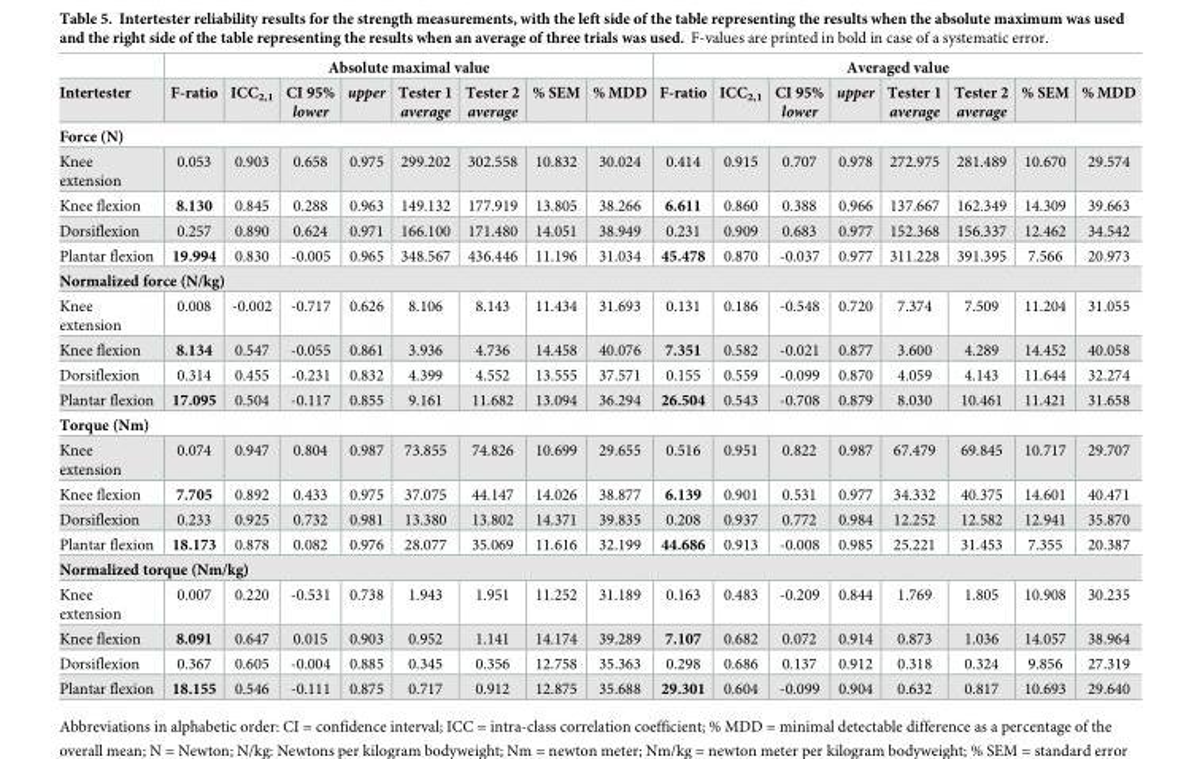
<table><thead><tr><td rowspan="2">Intertester</td><td colspan="8">Absolute maximal value</td><td colspan="8">Averaged value</td></tr><tr><td>F-ratio</td><td>ICC<sub>2,1</sub></td><td>CI 95% lower</td><td>upper</td><td>Tester 1 average</td><td>Tester 2 average</td><td>% SEM</td><td>% MDD</td><td>F-ratio</td><td>ICC<sub>2,1</sub></td><td>CI 95% lower</td><td>upper</td><td>Tester 1 average</td><td>Tester 2 average</td><td>% SEM</td><td>% MDD</td></tr></thead><tbody><tr><td colspan="17">Force (N)</td></tr><tr><td>Knee extension</td><td>0.053</td><td>0.903</td><td>0.658</td><td>0.975</td><td>299.202</td><td>302.558</td><td>10.832</td><td>30.024</td><td>0.414</td><td>0.915</td><td>0.707</td><td>0.978</td><td>272.975</td><td>281.489</td><td>10.670</td><td>29.574</td></tr><tr><td>Knee flexion</td><td>8.130</td><td>0.845</td><td>0.288</td><td>0.963</td><td>149.132</td><td>177.919</td><td>13.805</td><td>38.266</td><td>6.611</td><td>0.860</td><td>0.388</td><td>0.966</td><td>137.667</td><td>162.349</td><td>14.309</td><td>39.663</td></tr><tr><td>Dorsiflexion</td><td>0.257</td><td>0.890</td><td>0.624</td><td>0.971</td><td>166.100</td><td>171.480</td><td>14.051</td><td>38.949</td><td>0.231</td><td>0.909</td><td>0.683</td><td>0.977</td><td>152.368</td><td>156.337</td><td>12.462</td><td>34.542</td></tr><tr><td>Plantar flexion</td><td>19.994</td><td>0.830</td><td>-0.005</td><td>0.965</td><td>348.567</td><td>436.446</td><td>11.196</td><td>31.034</td><td>45.478</td><td>0.870</td><td>-0.037</td><td>0.977</td><td>311.228</td><td>391.395</td><td>7.566</td><td>20.973</td></tr><tr><td colspan="17">Normalized force (N/kg)</td></tr><tr><td>Knee extension</td><td>0.008</td><td>-0.002</td><td>-0.717</td><td>0.626</td><td>8.106</td><td>8.143</td><td>11.434</td><td>31.693</td><td>0.131</td><td>0.186</td><td>-0.548</td><td>0.720</td><td>7.374</td><td>7.509</td><td>11.204</td><td>31.055</td></tr><tr><td>Knee flexion</td><td>8.134</td><td>0.547</td><td>-0.055</td><td>0.861</td><td>3.936</td><td>4.736</td><td>14.458</td><td>40.076</td><td>7.351</td><td>0.582</td><td>-0.021</td><td>0.877</td><td>3.600</td><td>4.289</td><td>14.452</td><td>40.058</td></tr><tr><td>Dorsiflexion</td><td>0.314</td><td>0.455</td><td>-0.231</td><td>0.832</td><td>4.399</td><td>4.552</td><td>13.555</td><td>37.571</td><td>0.155</td><td>0.559</td><td>-0.099</td><td>0.870</td><td>4.059</td><td>4.143</td><td>11.644</td><td>32.274</td></tr><tr><td>Plantar flexion</td><td>17.095</td><td>0.504</td><td>-0.117</td><td>0.855</td><td>9.161</td><td>11.682</td><td>13.094</td><td>36.294</td><td>26.504</td><td>0.543</td><td>-0.708</td><td>0.879</td><td>8.030</td><td>10.461</td><td>11.421</td><td>31.658</td></tr><tr><td colspan="17">Torque (Nm)</td></tr><tr><td>Knee extension</td><td>0.074</td><td>0.947</td><td>0.804</td><td>0.987</td><td>73.855</td><td>74.826</td><td>10.699</td><td>29.655</td><td>0.516</td><td>0.951</td><td>0.822</td><td>0.987</td><td>67.479</td><td>69.845</td><td>10.717</td><td>29.707</td></tr><tr><td>Knee flexion</td><td>7.705</td><td>0.892</td><td>0.433</td><td>0.975</td><td>37.075</td><td>44.147</td><td>14.026</td><td>38.877</td><td>6.139</td><td>0.901</td><td>0.531</td><td>0.977</td><td>34.332</td><td>40.375</td><td>14.601</td><td>40.471</td></tr><tr><td>Dorsiflexion</td><td>0.233</td><td>0.925</td><td>0.732</td><td>0.981</td><td>13.380</td><td>13.802</td><td>14.371</td><td>39.835</td><td>0.208</td><td>0.937</td><td>0.772</td><td>0.984</td><td>12.252</td><td>12.582</td><td>12.941</td><td>35.870</td></tr><tr><td>Plantar flexion</td><td>18.173</td><td>0.878</td><td>0.082</td><td>0.976</td><td>28.077</td><td>35.069</td><td>11.616</td><td>32.199</td><td>44.686</td><td>0.913</td><td>-0.008</td><td>0.985</td><td>25.221</td><td>31.453</td><td>7.355</td><td>20.387</td></tr><tr><td colspan="17">Normalized torque (Nm/kg)</td></tr><tr><td>Knee extension</td><td>0.007</td><td>0.220</td><td>-0.531</td><td>0.738</td><td>1.943</td><td>1.951</td><td>11.252</td><td>31.189</td><td>0.163</td><td>0.483</td><td>-0.209</td><td>0.844</td><td>1.769</td><td>1.805</td><td>10.908</td><td>30.235</td></tr><tr><td>Knee flexion</td><td>8.091</td><td>0.647</td><td>0.015</td><td>0.903</td><td>0.952</td><td>1.141</td><td>14.174</td><td>39.289</td><td>7.107</td><td>0.682</td><td>0.072</td><td>0.914</td><td>0.873</td><td>1.036</td><td>14.057</td><td>38.964</td></tr><tr><td>Dorsiflexion</td><td>0.367</td><td>0.605</td><td>-0.004</td><td>0.885</td><td>0.345</td><td>0.356</td><td>12.758</td><td>35.363</td><td>0.298</td><td>0.686</td><td>0.137</td><td>0.912</td><td>0.318</td><td>0.324</td><td>9.856</td><td>27.319</td></tr><tr><td>Plantar flexion</td><td>18.155</td><td>0.546</td><td>-0.111</td><td>0.875</td><td>0.717</td><td>0.912</td><td>12.875</td><td>35.688</td><td>29.301</td><td>0.604</td><td>-0.099</td><td>0.904</td><td>0.632</td><td>0.817</td><td>10.693</td><td>29.640</td></tr></tbody></table>